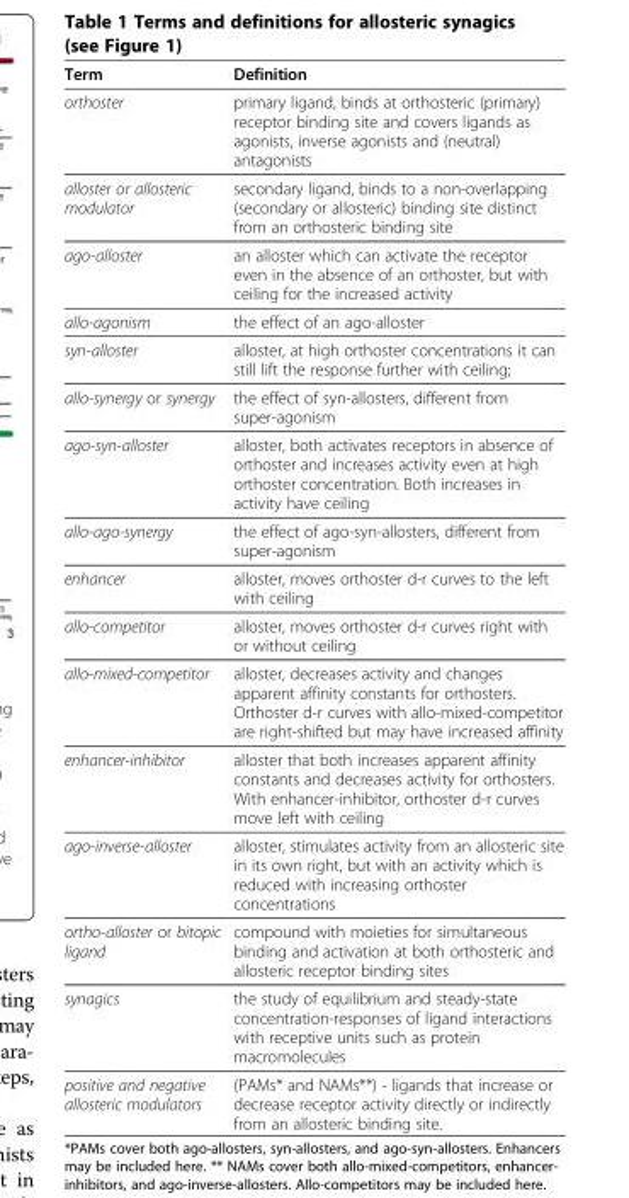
<table><thead><tr><td>Term</td><td>Definition</td></tr></thead><tbody><tr><td>orthoster</td><td>primary ligand, binds at orthosteric (primary) receptor binding site and covers ligands as agonists, inverse agonists and (neutral) antagonists</td></tr><tr><td>alloster or allosteric modulator</td><td>secondary ligand, binds to a non-overlapping (secondary or allosteric) binding site distinct from an orthosteric binding site</td></tr><tr><td>ago-alloster</td><td>an alloster which can activate the receptor even in the absence of an orthoster, but with ceiling for the increased activity</td></tr><tr><td>allo-agonism</td><td>the effect of an ago-alloster</td></tr><tr><td>syn-alloster</td><td>alloster, at high orthoster concentrations it can still lift the response further with ceiling;</td></tr><tr><td>allo-synergy or synergy</td><td>the effect of syn-allosters, different from super-agonism</td></tr><tr><td>ago-syn-alloster</td><td>alloster, both activates receptors in absence of orthoster and increases activity even at high orthoster concentration. Both increases in activity have ceiling</td></tr><tr><td>allo-ago-synergy</td><td>the effect of ago-syn-allosters, different from super-agonism</td></tr><tr><td>enhancer</td><td>alloster, moves orthoster d-r curves to the left with ceiling</td></tr><tr><td>allo-competitor</td><td>alloster, moves orthoster d-r curves right with or without ceiling</td></tr><tr><td>allo-mixed-competitor</td><td>alloster, decreases activity and changes apparent affinity constants for orthosters. Orthoster d-r curves with allo-mixed-competitor are right-shifted but may have increased affinity</td></tr><tr><td>enhancer-inhibitor</td><td>alloster that both increases apparent affinity constants and decreases activity for orthosters. With enhancer-inhibitor, orthoster d-r curves move left with ceiling</td></tr><tr><td>ago-inverse-alloster</td><td>alloster, stimulates activity from an allosteric site in its own right, but with an activity which is reduced with increasing orthoster concentrations</td></tr><tr><td>ortho-alloster or bitopic ligand</td><td>compound with moieties for simultaneous binding and activation at both orthosteric and allosteric receptor binding sites</td></tr><tr><td>synagics</td><td>the study of equilibrium and steady-state concentration-responses of ligand interactions with receptive units such as protein macromolecules</td></tr><tr><td>positive and negative allosteric modulators</td><td>(PAMs* and NAMs**) - ligands that increase or decrease receptor activity directly or indirectly from an allosteric binding site.</td></tr></tbody></table>